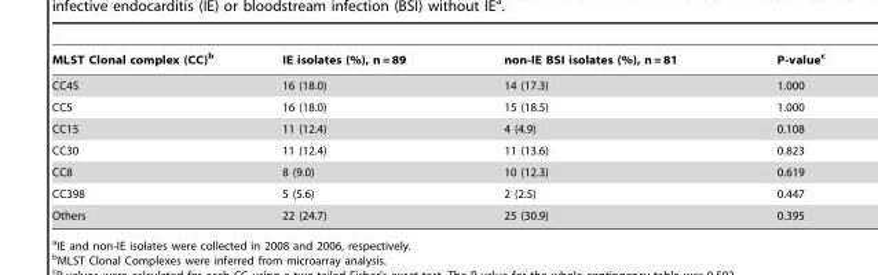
<table><thead><tr><td>MLST Clonal complex (CC)<sup>b</sup></td><td>IE isolates (%), n = 89</td><td>non-IE BSI isolates (%), n = 81</td><td>P-value<sup>c</sup></td></tr></thead><tbody><tr><td>CC45</td><td>16 (18.0)</td><td>14 (17.3)</td><td>1.000</td></tr><tr><td>CC5</td><td>16 (18.0)</td><td>15 (18.5)</td><td>1.000</td></tr><tr><td>CC15</td><td>11 (12.4)</td><td>4 (4.9)</td><td>0.108</td></tr><tr><td>CC30</td><td>11 (12.4)</td><td>11 (13.6)</td><td>0.823</td></tr><tr><td>CC8</td><td>8 (9.0)</td><td>10 (12.3)</td><td>0.619</td></tr><tr><td>CC398</td><td>5 (5.6)</td><td>2 (2.5)</td><td>0.447</td></tr><tr><td>Others</td><td>22 (24.7)</td><td>25 (30.9)</td><td>0.395</td></tr></tbody></table>